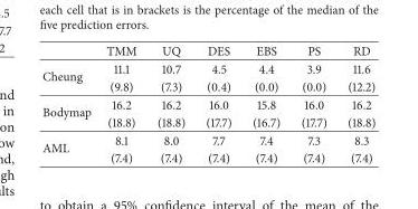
<table><thead><tr><td></td><td>TMM</td><td>UQ</td><td>DES</td><td>EBS</td><td>PS</td><td>RD</td></tr></thead><tbody><tr><td rowspan="2">Cheung</td><td>11.1</td><td>10.7</td><td>4.5</td><td>4.4</td><td>3.9</td><td>11.6</td></tr><tr><td>(9.8)</td><td>(7.3)</td><td>(0.4)</td><td>(0.0)</td><td>(0.0)</td><td>(12.2)</td></tr><tr><td rowspan="2">Bodymap</td><td>16.2</td><td>16.2</td><td>16.0</td><td>15.8</td><td>16.0</td><td>16.2</td></tr><tr><td>(18.8)</td><td>(18.8)</td><td>(17.7)</td><td>(16.7)</td><td>(17.7)</td><td>(18.8)</td></tr><tr><td rowspan="2">AML</td><td>8.1</td><td>8.0</td><td>7.7</td><td>7.4</td><td>7.3</td><td>8.3</td></tr><tr><td>(7.4)</td><td>(7.4)</td><td>(7.4)</td><td>(7.4)</td><td>(7.4)</td><td>(7.4)</td></tr></tbody></table>